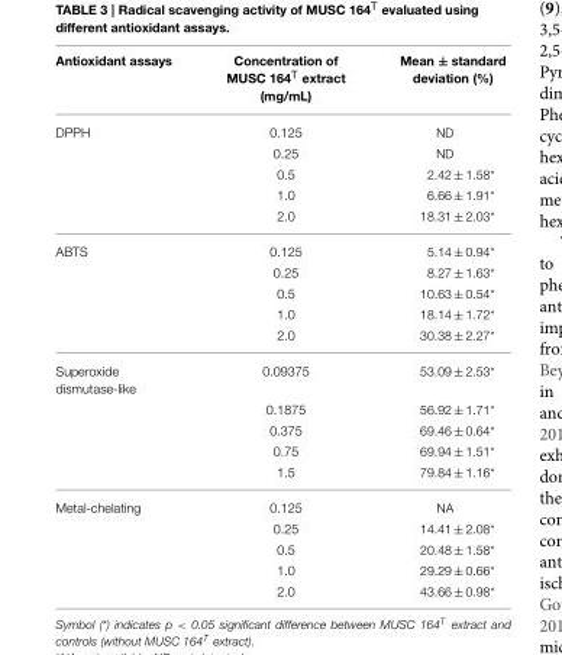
<table><thead><tr><td>Antioxidant assays</td><td>Concentration of MUSC 164<sup>T</sup> extract (mg/mL)</td><td>Mean ± standard deviation (%)</td></tr></thead><tbody><tr><td rowspan="5">DPPH</td><td>0.125</td><td>ND</td></tr><tr><td>0.25</td><td>ND</td></tr><tr><td>0.5</td><td>2.42 ± 1.58*</td></tr><tr><td>1.0</td><td>6.66 ± 1.91*</td></tr><tr><td>2.0</td><td>18.31 ± 2.03*</td></tr><tr><td rowspan="5">ABTS</td><td>0.125</td><td>5.14 ± 0.94*</td></tr><tr><td>0.25</td><td>8.27 ± 1.63*</td></tr><tr><td>0.5</td><td>10.63 ± 0.54*</td></tr><tr><td>1.0</td><td>18.14 ± 1.72*</td></tr><tr><td>2.0</td><td>30.38 ± 2.27*</td></tr><tr><td rowspan="5">Superoxide dismutase-like</td><td>0.09375</td><td>53.09 ± 2.53*</td></tr><tr><td>0.1875</td><td>56.92 ± 1.71*</td></tr><tr><td>0.375</td><td>69.46 ± 0.64*</td></tr><tr><td>0.75</td><td>69.94 ± 1.51*</td></tr><tr><td>1.5</td><td>79.84 ± 1.16*</td></tr><tr><td rowspan="5">Metal-chelating</td><td>0.125</td><td>NA</td></tr><tr><td>0.25</td><td>14.41 ± 2.08*</td></tr><tr><td>0.5</td><td>20.48 ± 1.58*</td></tr><tr><td>1.0</td><td>29.29 ± 0.66*</td></tr><tr><td>2.0</td><td>43.66 ± 0.98*</td></tr></tbody></table>